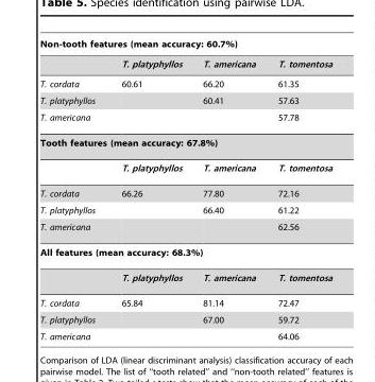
<table><thead><tr><td colspan="4">Non-tooth features (mean accuracy: 60.7%)</td></tr><tr><td></td><td>T. platyphyllos</td><td>T. americana</td><td>T. tomentosa</td></tr></thead><tbody><tr><td>T. cordata</td><td>60.61</td><td>66.20</td><td>61.35</td></tr><tr><td>T. platyphyllos</td><td></td><td>60.41</td><td>57.63</td></tr><tr><td>T. americana</td><td></td><td></td><td>57.78</td></tr><tr><td colspan="4">Tooth features (mean accuracy: 67.8%)</td></tr><tr><td></td><td>T. platyphyllos</td><td>T. americana</td><td>T. tomentosa</td></tr><tr><td>T. cordata</td><td>66.26</td><td>77.80</td><td>72.16</td></tr><tr><td>T. platyphyllos</td><td></td><td>66.40</td><td>61.22</td></tr><tr><td>T. americana</td><td></td><td></td><td>62.56</td></tr><tr><td colspan="4">All features (mean accuracy: 68.3%)</td></tr><tr><td></td><td>T. platyphyllos</td><td>T. americana</td><td>T. tomentosa</td></tr><tr><td>T. cordata</td><td>65.84</td><td>81.14</td><td>72.47</td></tr><tr><td>T. platyphyllos</td><td></td><td>67.00</td><td>59.72</td></tr><tr><td>T. americana</td><td></td><td></td><td>64.06</td></tr></tbody></table>